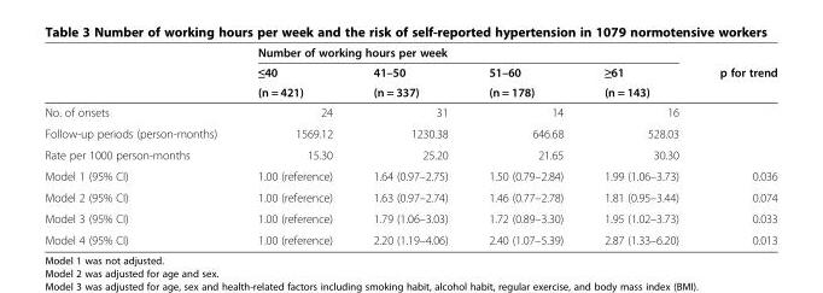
<table><thead><tr><td rowspan="3"></td><td colspan="4">Number of working hours per week</td><td rowspan="3">p for trend</td></tr><tr><td rowspan="2">≤40 (n = 421)</td><td rowspan="2">41–50 (n = 337)</td><td rowspan="2">51–60 (n = 178)</td><td rowspan="2">≥61 (n = 143)</td></tr><tr></tr></thead><tbody><tr><td>No. of onsets</td><td>24</td><td>31</td><td>14</td><td>16</td><td></td></tr><tr><td>Follow-up periods (person-months)</td><td>1569.12</td><td>1230.38</td><td>646.68</td><td>528.03</td><td></td></tr><tr><td>Rate per 1000 person-months</td><td>15.30</td><td>25.20</td><td>21.65</td><td>30.30</td><td></td></tr><tr><td>Model 1 (95% CI)</td><td>1.00 (reference)</td><td>1.64 (0.97–2.75)</td><td>1.50 (0.79–2.84)</td><td>1.99 (1.06–3.73)</td><td>0.036</td></tr><tr><td>Model 2 (95% CI)</td><td>1.00 (reference)</td><td>1.63 (0.97–2.74)</td><td>1.46 (0.77–2.78)</td><td>1.81 (0.95–3.44)</td><td>0.074</td></tr><tr><td>Model 3 (95% CI)</td><td>1.00 (reference)</td><td>1.79 (1.06–3.03)</td><td>1.72 (0.89–3.30)</td><td>1.95 (1.02–3.73)</td><td>0.033</td></tr><tr><td>Model 4 (95% CI)</td><td>1.00 (reference)</td><td>2.20 (1.19–4.06)</td><td>2.40 (1.07–5.39)</td><td>2.87 (1.33–6.20)</td><td>0.013</td></tr></tbody></table>